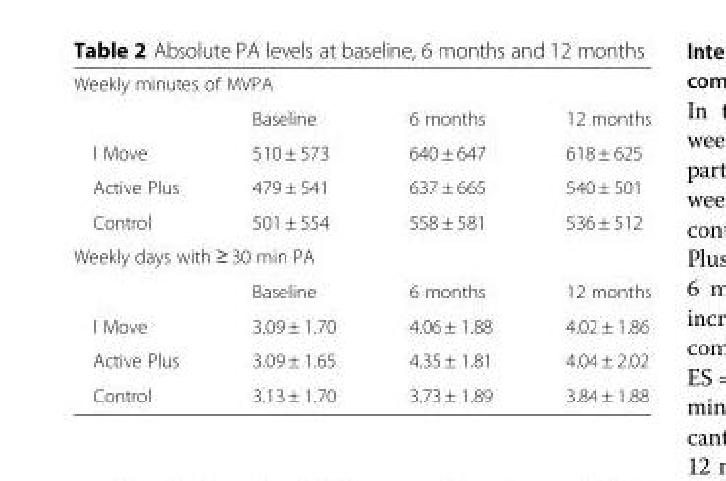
<table><tbody><tr><td colspan="4">Weekly minutes of MVPA</td></tr><tr><td></td><td>Baseline</td><td>6 months</td><td>12 months</td></tr><tr><td>I Move</td><td>510 ± 573</td><td>640 ± 647</td><td>618 ± 625</td></tr><tr><td>Active Plus</td><td>479 ± 541</td><td>637 ± 665</td><td>540 ± 501</td></tr><tr><td>Control</td><td>501 ± 554</td><td>558 ± 581</td><td>536 ± 512</td></tr><tr><td colspan="4">Weekly days with ≥ 30 min PA</td></tr><tr><td></td><td>Baseline</td><td>6 months</td><td>12 months</td></tr><tr><td>I Move</td><td>3.09 ± 1.70</td><td>4.06 ± 1.88</td><td>4.02 ± 1.86</td></tr><tr><td>Active Plus</td><td>3.09 ± 1.65</td><td>4.35 ± 1.81</td><td>4.04 ± 2.02</td></tr><tr><td>Control</td><td>3.13 ± 1.70</td><td>3.73 ± 1.89</td><td>3.84 ± 1.88</td></tr></tbody></table>